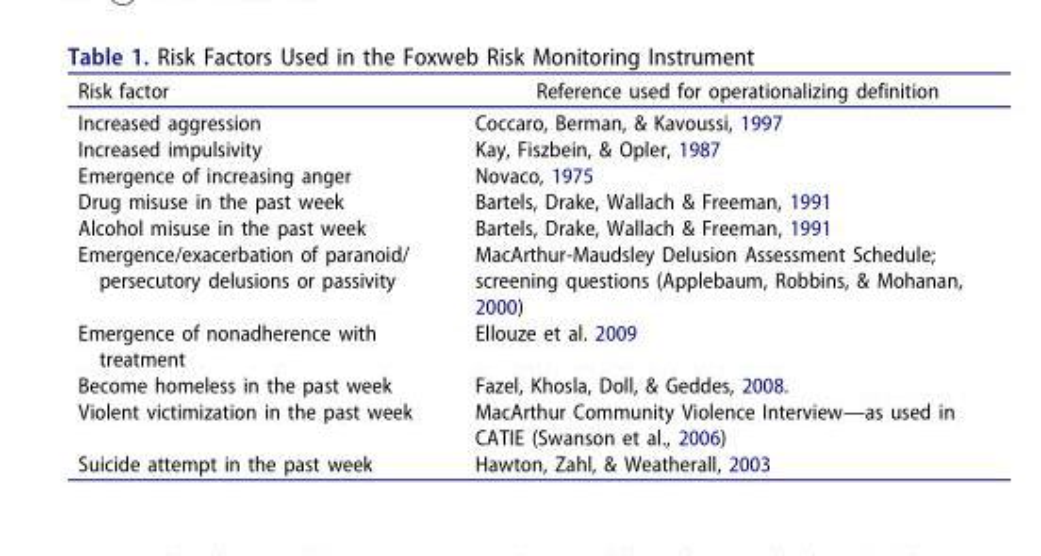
<table><thead><tr><td>Risk factor</td><td>Reference used for operationalizing definition</td></tr></thead><tbody><tr><td>Increased aggression</td><td>Coccaro, Berman, &amp; Kavoussi, 1997</td></tr><tr><td>Increased impulsivity</td><td>Kay, Fiszbein, &amp; Opler, 1987</td></tr><tr><td>Emergence of increasing anger</td><td>Novaco, 1975</td></tr><tr><td>Drug misuse in the past week</td><td>Bartels, Drake, Wallach &amp; Freeman, 1991</td></tr><tr><td>Alcohol misuse in the past week</td><td>Bartels, Drake, Wallach &amp; Freeman, 1991</td></tr><tr><td>Emergence/exacerbation of paranoid/ persecutory delusions or passivity</td><td>MacArthur-Maudsley Delusion Assessment Schedule; screening questions (Applebaum, Robbins, &amp; Mohanan, 2000)</td></tr><tr><td>Emergence of nonadherence with treatment</td><td>Ellouze et al. 2009</td></tr><tr><td>Become homeless in the past week</td><td>Fazel, Khosla, Doll, &amp; Geddes, 2008.</td></tr><tr><td>Violent victimization in the past week</td><td>MacArthur Community Violence Interview—as used in CATIE (Swanson et al., 2006)</td></tr><tr><td>Suicide attempt in the past week</td><td>Hawton, Zahl, &amp; Weatherall, 2003</td></tr></tbody></table>